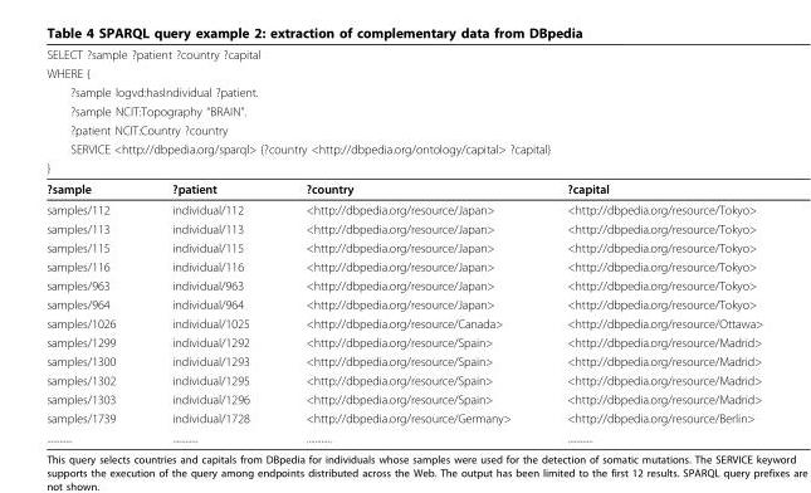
<table><thead><tr><td rowspan="7" colspan="4">SELECT ?sample ?patient ?country ?capital WHERE { ?sample logvd:hasIndividual ?patient. ?sample NCIT:Topography “BRAIN”. ?patient NCIT:Country ?country SERVICE &lt;http://dbpedia.org/sparql&gt; {?country &lt;http://dbpedia.org/ontology/capital&gt; ?capital} }</td></tr><tr></tr><tr></tr><tr></tr><tr></tr><tr></tr><tr></tr><tr><td>?sample</td><td>?patient</td><td>?country</td><td>?capital</td></tr></thead><tbody><tr><td>samples/112</td><td>individual/112</td><td>&lt;http://dbpedia.org/resource/Japan&gt;</td><td>&lt;http://dbpedia.org/resource/Tokyo&gt;</td></tr><tr><td>samples/113</td><td>individual/113</td><td>&lt;http://dbpedia.org/resource/Japan&gt;</td><td>&lt;http://dbpedia.org/resource/Tokyo&gt;</td></tr><tr><td>samples/115</td><td>individual/115</td><td>&lt;http://dbpedia.org/resource/Japan&gt;</td><td>&lt;http://dbpedia.org/resource/Tokyo&gt;</td></tr><tr><td>samples/116</td><td>individual/116</td><td>&lt;http://dbpedia.org/resource/Japan&gt;</td><td>&lt;http://dbpedia.org/resource/Tokyo&gt;</td></tr><tr><td>samples/963</td><td>individual/963</td><td>&lt;http://dbpedia.org/resource/Japan&gt;</td><td>&lt;http://dbpedia.org/resource/Tokyo&gt;</td></tr><tr><td>samples/964</td><td>individual/964</td><td>&lt;http://dbpedia.org/resource/Japan&gt;</td><td>&lt;http://dbpedia.org/resource/Tokyo&gt;</td></tr><tr><td>samples/1026</td><td>individual/1025</td><td>&lt;http://dbpedia.org/resource/Canada&gt;</td><td>&lt;http://dbpedia.org/resource/Ottawa&gt;</td></tr><tr><td>samples/1299</td><td>individual/1292</td><td>&lt;http://dbpedia.org/resource/Spain&gt;</td><td>&lt;http://dbpedia.org/resource/Madrid&gt;</td></tr><tr><td>samples/1300</td><td>individual/1293</td><td>&lt;http://dbpedia.org/resource/Spain&gt;</td><td>&lt;http://dbpedia.org/resource/Madrid&gt;</td></tr><tr><td>samples/1302</td><td>individual/1295</td><td>&lt;http://dbpedia.org/resource/Spain&gt;</td><td>&lt;http://dbpedia.org/resource/Madrid&gt;</td></tr><tr><td>samples/1303</td><td>individual/1296</td><td>&lt;http://dbpedia.org/resource/Spain&gt;</td><td>&lt;http://dbpedia.org/resource/Madrid&gt;</td></tr><tr><td>samples/1739</td><td>individual/1728</td><td>&lt;http://dbpedia.org/resource/Germany&gt;</td><td>&lt;http://dbpedia.org/resource/Berlin&gt;</td></tr><tr><td>............</td><td>............</td><td>............</td><td>............</td></tr></tbody></table>